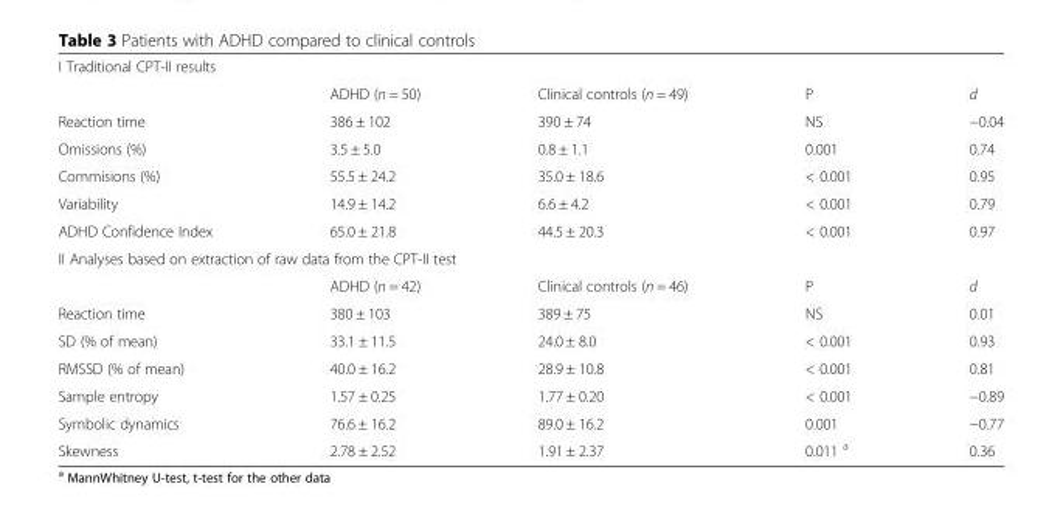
<table><tbody><tr><td colspan="5">I Traditional CPT-II results</td></tr><tr><td></td><td>ADHD (n = 50)</td><td>Clinical controls (n = 49)</td><td>P</td><td>d</td></tr><tr><td>Reaction time</td><td>386 ± 102</td><td>390 ± 74</td><td>NS</td><td>−0.04</td></tr><tr><td>Omissions (%)</td><td>3.5 ± 5.0</td><td>0.8 ± 1.1</td><td>0.001</td><td>0.74</td></tr><tr><td>Commisions (%)</td><td>55.5 ± 24.2</td><td>35.0 ± 18.6</td><td>&lt; 0.001</td><td>0.95</td></tr><tr><td>Variability</td><td>14.9 ± 14.2</td><td>6.6 ± 4.2</td><td>&lt; 0.001</td><td>0.79</td></tr><tr><td>ADHD Confidence Index</td><td>65.0 ± 21.8</td><td>44.5 ± 20.3</td><td>&lt; 0.001</td><td>0.97</td></tr><tr><td colspan="5">II Analyses based on extraction of raw data from the CPT-II test</td></tr><tr><td></td><td>ADHD (n = 42)</td><td>Clinical controls (n = 46)</td><td>P</td><td>d</td></tr><tr><td>Reaction time</td><td>380 ± 103</td><td>389 ± 75</td><td>NS</td><td>0.01</td></tr><tr><td>SD (% of mean)</td><td>33.1 ± 11.5</td><td>24.0 ± 8.0</td><td>&lt; 0.001</td><td>0.93</td></tr><tr><td>RMSSD (% of mean)</td><td>40.0 ± 16.2</td><td>28.9 ± 10.8</td><td>&lt; 0.001</td><td>0.81</td></tr><tr><td>Sample entropy</td><td>1.57 ± 0.25</td><td>1.77 ± 0.20</td><td>&lt; 0.001</td><td>−0.89</td></tr><tr><td>Symbolic dynamics</td><td>76.6 ± 16.2</td><td>89.0 ± 16.2</td><td>0.001</td><td>−0.77</td></tr><tr><td>Skewness</td><td>2.78 ± 2.52</td><td>1.91 ± 2.37</td><td>0.011 <sup>a</sup></td><td>0.36</td></tr></tbody></table>